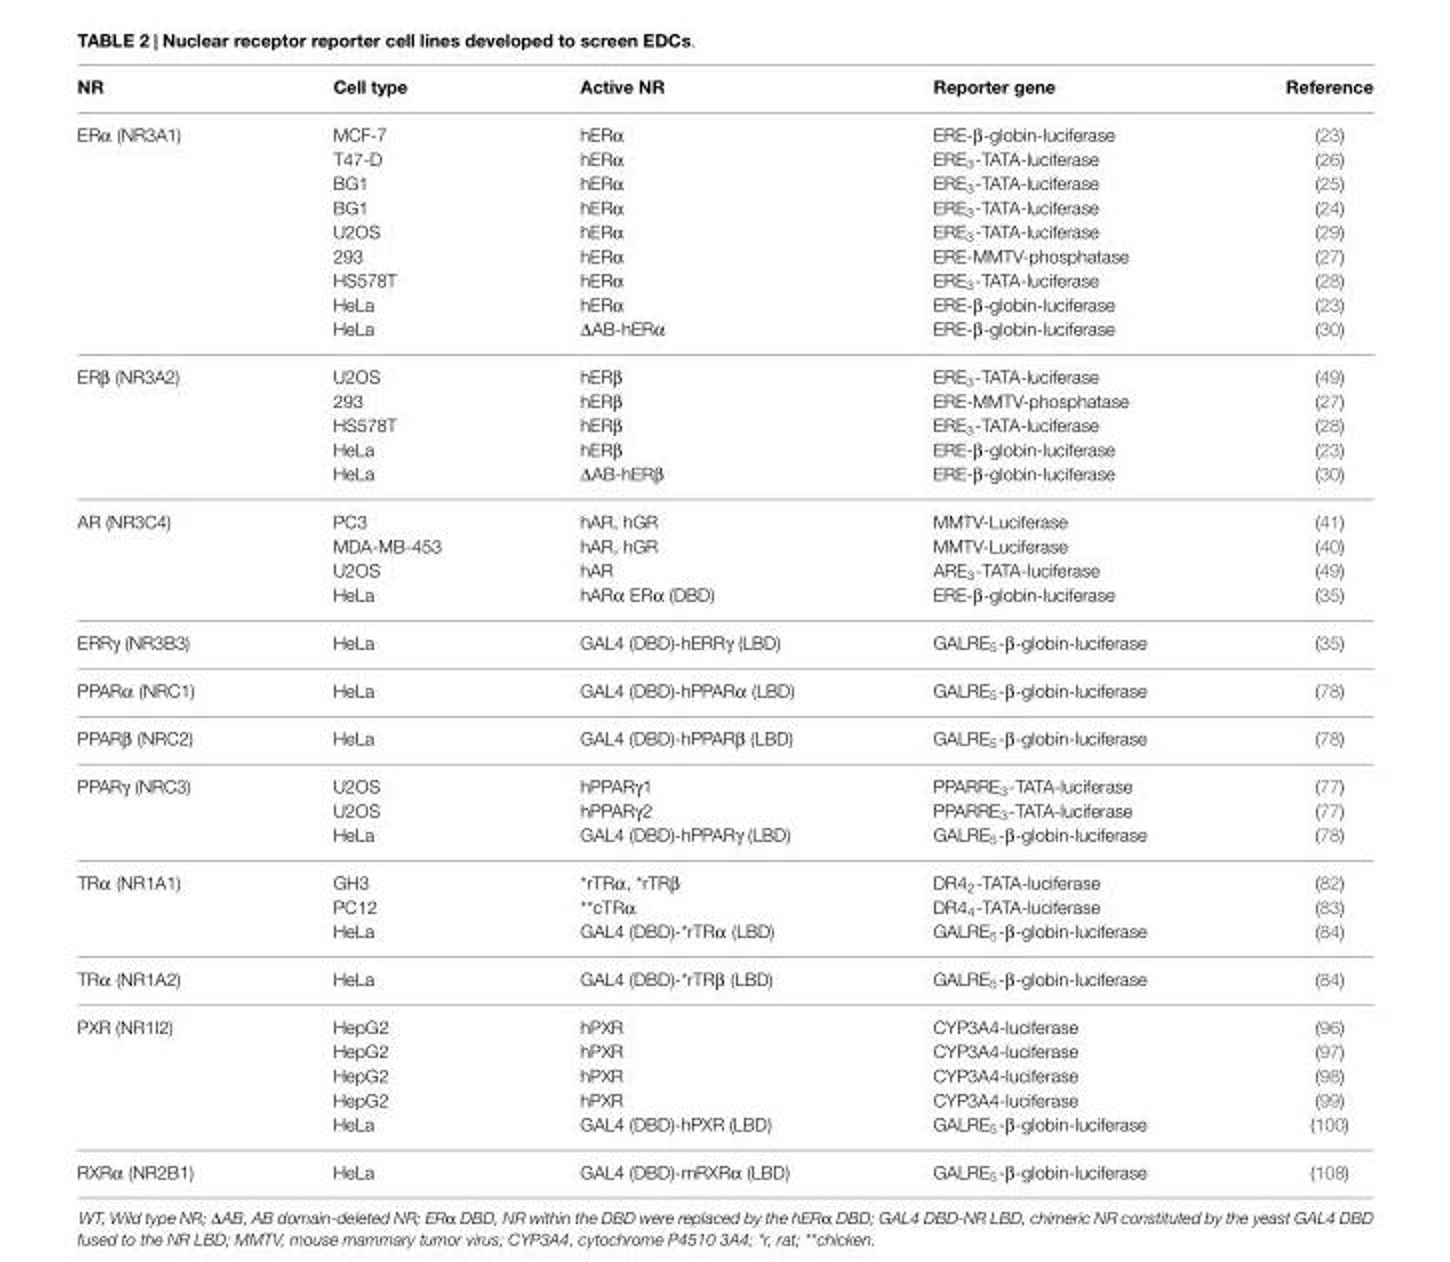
<table><thead><tr><td>NR</td><td>Cell type</td><td>Active NR</td><td>Reporter gene</td><td>Reference</td></tr></thead><tbody><tr><td rowspan="9">ERα (NR3A1)</td><td>MCF-7</td><td>hERα</td><td>ERE-β-globin-luciferase</td><td>(23)</td></tr><tr><td>T47-D</td><td>hERα</td><td>ERE<sub>3</sub>-TATA-luciferase</td><td>(26)</td></tr><tr><td>BG1</td><td>hERα</td><td>ERE<sub>3</sub>-TATA-luciferase</td><td>(25)</td></tr><tr><td>BG1</td><td>hERα</td><td>ERE<sub>3</sub>-TATA-luciferase</td><td>(24)</td></tr><tr><td>U2OS</td><td>hERα</td><td>ERE<sub>3</sub>-TATA-luciferase</td><td>(29)</td></tr><tr><td>293</td><td>hERα</td><td>ERE-MMTV-phosphatase</td><td>(27)</td></tr><tr><td>HS578T</td><td>hERα</td><td>ERE<sub>3</sub>-TATA-luciferase</td><td>(28)</td></tr><tr><td>HeLa</td><td>hERα</td><td>ERE-β-globin-luciferase</td><td>(23)</td></tr><tr><td>HeLa</td><td>∆AB-hERα</td><td>ERE-β-globin-luciferase</td><td>(30)</td></tr><tr><td rowspan="5">ERβ (NR3A2)</td><td>U2OS</td><td>hERβ</td><td>ERE<sub>3</sub>-TATA-luciferase</td><td>(49)</td></tr><tr><td>293</td><td>hERβ</td><td>ERE-MMTV-phosphatase</td><td>(27)</td></tr><tr><td>HS578T</td><td>hERβ</td><td>ERE<sub>3</sub>-TATA-luciferase</td><td>(28)</td></tr><tr><td>HeLa</td><td>hERβ</td><td>ERE-β-globin-luciferase</td><td>(23)</td></tr><tr><td>HeLa</td><td>∆AB-hERβ</td><td>ERE-β-globin-luciferase</td><td>(30)</td></tr><tr><td rowspan="4">AR (NR3C4)</td><td>PC3</td><td>hAR, hGR</td><td>MMTV-Luciferase</td><td>(41)</td></tr><tr><td>MDA-MB-453</td><td>hAR, hGR</td><td>MMTV-Luciferase</td><td>(40)</td></tr><tr><td>U2OS</td><td>hAR</td><td>ARE<sub>3</sub>-TATA-luciferase</td><td>(49)</td></tr><tr><td>HeLa</td><td>hARα ERα (DBD)</td><td>ERE-β-globin-luciferase</td><td>(35)</td></tr><tr><td>ERRγ (NR3B3)</td><td>HeLa</td><td>GAL4 (DBD)-hERRγ (LBD)</td><td>GALRE<sub>5</sub>-β-globin-luciferase</td><td>(35)</td></tr><tr><td>PPARα (NRC1)</td><td>HeLa</td><td>GAL4 (DBD)-hPPARα (LBD)</td><td>GALRE<sub>5</sub>-β-globin-luciferase</td><td>(78)</td></tr><tr><td>PPARβ (NRC2)</td><td>HeLa</td><td>GAL4 (DBD)-hPPARβ (LBD)</td><td>GALRE<sub>5</sub>-β-globin-luciferase</td><td>(78)</td></tr><tr><td rowspan="3">PPARγ (NRC3)</td><td>U2OS</td><td>hPPARγ1</td><td>PPARRE<sub>3</sub>-TATA-luciferase</td><td>(77)</td></tr><tr><td>U2OS</td><td>hPPARγ2</td><td>PPARRE<sub>3</sub>-TATA-luciferase</td><td>(77)</td></tr><tr><td>HeLa</td><td>GAL4 (DBD)-hPPARγ (LBD)</td><td>GALRE<sub>5</sub>-β-globin-luciferase</td><td>(78)</td></tr><tr><td rowspan="3">TRα (NR1A1)</td><td>GH3</td><td>*rTRα, *rTRβ</td><td>DR4<sub>2</sub>-TATA-luciferase</td><td>(82)</td></tr><tr><td>PC12</td><td>**cTRα</td><td>DR4<sub>4</sub>-TATA-luciferase</td><td>(83)</td></tr><tr><td>HeLa</td><td>GAL4 (DBD)-*rTRα (LBD)</td><td>GALRE<sub>5</sub>-β-globin-luciferase</td><td>(84)</td></tr><tr><td>TRα (NR1A2)</td><td>HeLa</td><td>GAL4 (DBD)-*rTRβ (LBD)</td><td>GALRE<sub>5</sub>-β-globin-luciferase</td><td>(84)</td></tr><tr><td rowspan="5">PXR (NR1I2)</td><td>HepG2</td><td>hPXR</td><td>CYP3A4-luciferase</td><td>(96)</td></tr><tr><td>HepG2</td><td>hPXR</td><td>CYP3A4-luciferase</td><td>(97)</td></tr><tr><td>HepG2</td><td>hPXR</td><td>CYP3A4-luciferase</td><td>(98)</td></tr><tr><td>HepG2</td><td>hPXR</td><td>CYP3A4-luciferase</td><td>(99)</td></tr><tr><td>HeLa</td><td>GAL4 (DBD)-hPXR (LBD)</td><td>GALRE<sub>5</sub>-β-globin-luciferase</td><td>(100)</td></tr><tr><td>RXRα (NR2B1)</td><td>HeLa</td><td>GAL4 (DBD)-mRXRα (LBD)</td><td>GALRE<sub>5</sub>-β-globin-luciferase</td><td>(108)</td></tr></tbody></table>